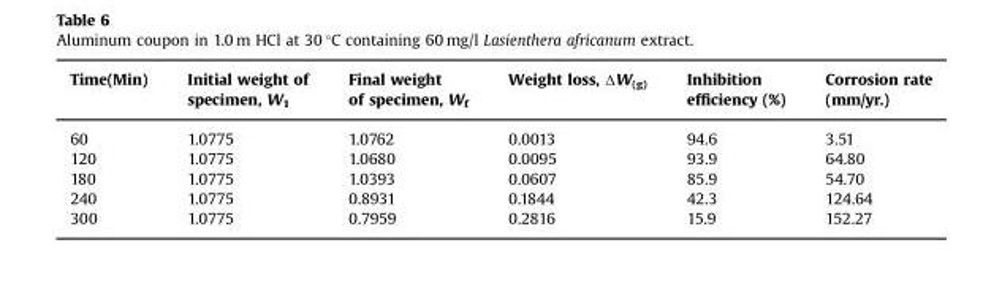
<table><thead><tr><td>Time(Min)</td><td>Initial weight of specimen, W<sub>1</sub></td><td>Final weight of specimen, W<sub>f</sub></td><td>Weight loss, ΔW(g)</td><td>Inhibition efficiency (%)</td><td>Corrosion rate (mm/yr.)</td></tr></thead><tbody><tr><td>60</td><td>1.0775</td><td>1.0762</td><td>0.0013</td><td>94.6</td><td>3.51</td></tr><tr><td>120</td><td>1.0775</td><td>1.0680</td><td>0.0095</td><td>93.9</td><td>64.80</td></tr><tr><td>180</td><td>1.0775</td><td>1.0393</td><td>0.0607</td><td>85.9</td><td>54.70</td></tr><tr><td>240</td><td>1.0775</td><td>0.8931</td><td>0.1844</td><td>42.3</td><td>124.64</td></tr><tr><td>300</td><td>1.0775</td><td>0.7959</td><td>0.2816</td><td>15.9</td><td>152.27</td></tr></tbody></table>